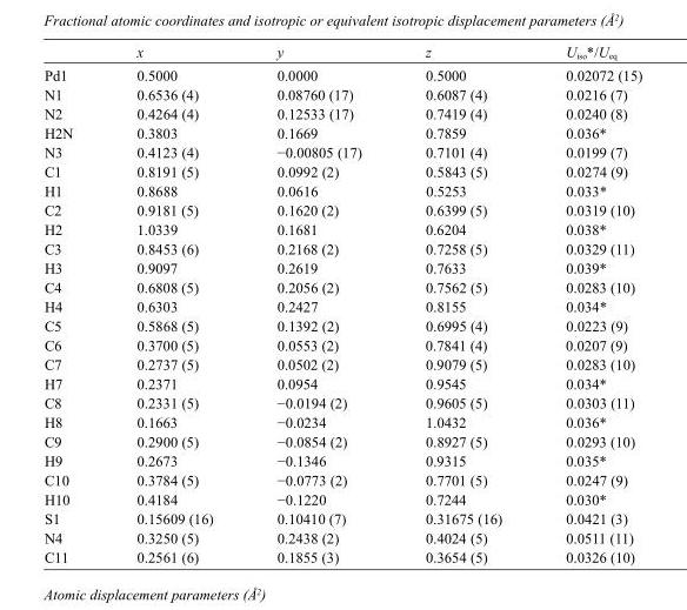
<table><thead><tr><td></td><td>x</td><td>y</td><td>z</td><td>U<sub>iso</sub>*/U<sub>eq</sub></td></tr></thead><tbody><tr><td>Pd1</td><td>0.5000</td><td>0.0000</td><td>0.5000</td><td>0.02072 (15)</td></tr><tr><td>N1</td><td>0.6536 (4)</td><td>0.08760 (17)</td><td>0.6087 (4)</td><td>0.0216 (7)</td></tr><tr><td>N2</td><td>0.4264 (4)</td><td>0.12533 (17)</td><td>0.7419 (4)</td><td>0.0240 (8)</td></tr><tr><td>H2N</td><td>0.3803</td><td>0.1669</td><td>0.7859</td><td>0.036*</td></tr><tr><td>N3</td><td>0.4123 (4)</td><td>−0.00805 (17)</td><td>0.7101 (4)</td><td>0.0199 (7)</td></tr><tr><td>C1</td><td>0.8191 (5)</td><td>0.0992 (2)</td><td>0.5843 (5)</td><td>0.0274 (9)</td></tr><tr><td>H1</td><td>0.8688</td><td>0.0616</td><td>0.5253</td><td>0.033*</td></tr><tr><td>C2</td><td>0.9181 (5)</td><td>0.1620 (2)</td><td>0.6399 (5)</td><td>0.0319 (10)</td></tr><tr><td>H2</td><td>1.0339</td><td>0.1681</td><td>0.6204</td><td>0.038*</td></tr><tr><td>C3</td><td>0.8453 (6)</td><td>0.2168 (2)</td><td>0.7258 (5)</td><td>0.0329 (11)</td></tr><tr><td>H3</td><td>0.9097</td><td>0.2619</td><td>0.7633</td><td>0.039*</td></tr><tr><td>C4</td><td>0.6808 (5)</td><td>0.2056 (2)</td><td>0.7562 (5)</td><td>0.0283 (10)</td></tr><tr><td>H4</td><td>0.6303</td><td>0.2427</td><td>0.8155</td><td>0.034*</td></tr><tr><td>C5</td><td>0.5868 (5)</td><td>0.1392 (2)</td><td>0.6995 (4)</td><td>0.0223 (9)</td></tr><tr><td>C6</td><td>0.3700 (5)</td><td>0.0553 (2)</td><td>0.7841 (4)</td><td>0.0207 (9)</td></tr><tr><td>C7</td><td>0.2737 (5)</td><td>0.0502 (2)</td><td>0.9079 (5)</td><td>0.0283 (10)</td></tr><tr><td>H7</td><td>0.2371</td><td>0.0954</td><td>0.9545</td><td>0.034*</td></tr><tr><td>C8</td><td>0.2331 (5)</td><td>−0.0194 (2)</td><td>0.9605 (5)</td><td>0.0303 (11)</td></tr><tr><td>H8</td><td>0.1663</td><td>−0.0234</td><td>1.0432</td><td>0.036*</td></tr><tr><td>C9</td><td>0.2900 (5)</td><td>−0.0854 (2)</td><td>0.8927 (5)</td><td>0.0293 (10)</td></tr><tr><td>H9</td><td>0.2673</td><td>−0.1346</td><td>0.9315</td><td>0.035*</td></tr><tr><td>C10</td><td>0.3784 (5)</td><td>−0.0773 (2)</td><td>0.7701 (5)</td><td>0.0247 (9)</td></tr><tr><td>H10</td><td>0.4184</td><td>−0.1220</td><td>0.7244</td><td>0.030*</td></tr><tr><td>S1</td><td>0.15609 (16)</td><td>0.10410 (7)</td><td>0.31675 (16)</td><td>0.0421 (3)</td></tr><tr><td>N4</td><td>0.3250 (5)</td><td>0.2438 (2)</td><td>0.4024 (5)</td><td>0.0511 (11)</td></tr><tr><td>C11</td><td>0.2561 (6)</td><td>0.1855 (3)</td><td>0.3654 (5)</td><td>0.0326 (10)</td></tr></tbody></table>